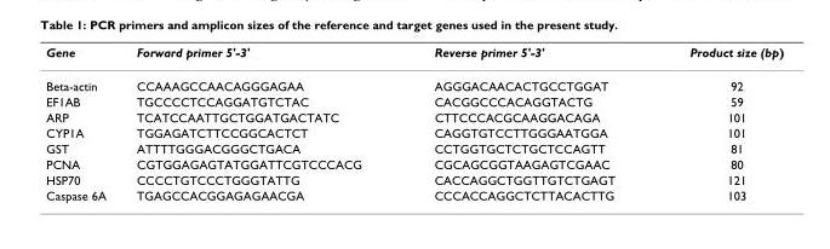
<table><thead><tr><td>Gene</td><td>Forward primer 5&#x27;-3&#x27;</td><td>Reverse primer 5&#x27;-3&#x27;</td><td>Product size (bp)</td></tr></thead><tbody><tr><td>Beta-actin</td><td>CCAAAGCCAACAGGGAGAA</td><td>AGGGACAACACTGCCTGGAT</td><td>92</td></tr><tr><td>EF1AB</td><td>TGCCCCTCCAGGATGTCTAC</td><td>CACGGCCCACAGGTACTG</td><td>59</td></tr><tr><td>ARP</td><td>TCATCCAATTGCTGGATGACTATC</td><td>CTTCCCACGCAAGGACAGA</td><td>101</td></tr><tr><td>CYP1A</td><td>TGGAGATCTTCCGGCACTCT</td><td>CAGGTGTCCTTGGGAATGGA</td><td>101</td></tr><tr><td>GST</td><td>ATTTTGGGACGGGCTGACA</td><td>CCTGGTGCTCTGCTCCAGTT</td><td>81</td></tr><tr><td>PCNA</td><td>CGTGGAGAGTATGGATTCGTCCCACG</td><td>CGCAGCGGTAAGAGTCGAAC</td><td>80</td></tr><tr><td>HSP70</td><td>CCCCTGTCCCTGGGTATTG</td><td>CACCAGGCTGGTTGTCTGAGT</td><td>121</td></tr><tr><td>Caspase 6A</td><td>TGAGCCACGGAGAGAACGA</td><td>CCCACCAGGCTCTTACACTTG</td><td>103</td></tr></tbody></table>